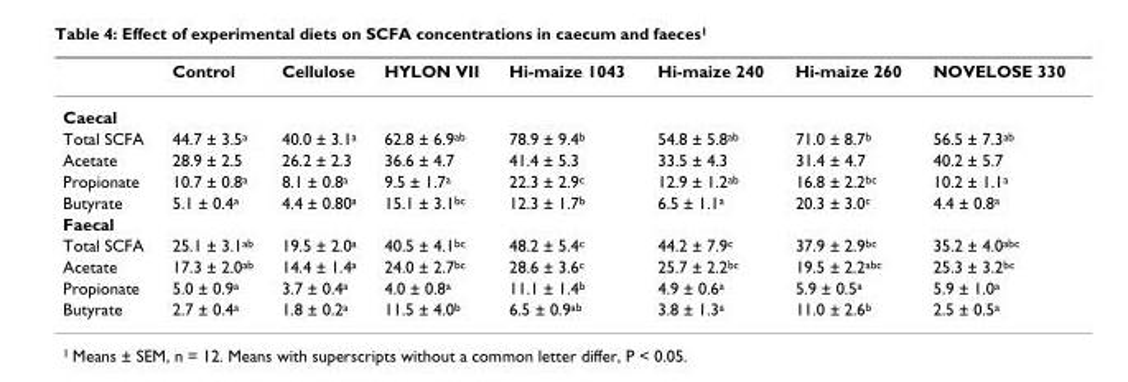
<table><thead><tr><td></td><td>Control</td><td>Cellulose</td><td>HYLON VII</td><td>Hi-maize 1043</td><td>Hi-maize 240</td><td>Hi-maize 260</td><td>NOVELOSE 330</td></tr></thead><tbody><tr><td colspan="8">Caecal</td></tr><tr><td>Total SCFA</td><td>44.7 ± 3.5<sup>a</sup></td><td>40.0 ± 3.1<sup>a</sup></td><td>62.8 ± 6.9<sup>ab</sup></td><td>78.9 ± 9.4<sup>b</sup></td><td>54.8 ± 5.8<sup>ab</sup></td><td>71.0 ± 8.7<sup>b</sup></td><td>56.5 ± 7.3<sup>ab</sup></td></tr><tr><td>Acetate</td><td>28.9 ± 2.5</td><td>26.2 ± 2.3</td><td>36.6 ± 4.7</td><td>41.4 ± 5.3</td><td>33.5 ± 4.3</td><td>31.4 ± 4.7</td><td>40.2 ± 5.7</td></tr><tr><td>Propionate</td><td>10.7 ± 0.8<sup>a</sup></td><td>8.1 ± 0.8<sup>a</sup></td><td>9.5 ± 1.7<sup>a</sup></td><td>22.3 ± 2.9<sup>c</sup></td><td>12.9 ± 1.2<sup>ab</sup></td><td>16.8 ± 2.2<sup>bc</sup></td><td>10.2 ± 1.1<sup>a</sup></td></tr><tr><td>Butyrate</td><td>5.1 ± 0.4<sup>a</sup></td><td>4.4 ± 0.80<sup>a</sup></td><td>15.1 ± 3.1<sup>bc</sup></td><td>12.3 ± 1.7<sup>b</sup></td><td>6.5 ± 1.1<sup>a</sup></td><td>20.3 ± 3.0<sup>c</sup></td><td>4.4 ± 0.8<sup>a</sup></td></tr><tr><td colspan="8">Faecal</td></tr><tr><td>Total SCFA</td><td>25.1 ± 3.1<sup>ab</sup></td><td>19.5 ± 2.0<sup>a</sup></td><td>40.5 ± 4.1<sup>bc</sup></td><td>48.2 ± 5.4<sup>c</sup></td><td>44.2 ± 7.9<sup>c</sup></td><td>37.9 ± 2.9<sup>bc</sup></td><td>35.2 ± 4.0<sup>abc</sup></td></tr><tr><td>Acetate</td><td>17.3 ± 2.0<sup>ab</sup></td><td>14.4 ± 1.4<sup>a</sup></td><td>24.0 ± 2.7<sup>bc</sup></td><td>28.6 ± 3.6<sup>c</sup></td><td>25.7 ± 2.2<sup>bc</sup></td><td>19.5 ± 2.2<sup>abc</sup></td><td>25.3 ± 3.2<sup>bc</sup></td></tr><tr><td>Propionate</td><td>5.0 ± 0.9<sup>a</sup></td><td>3.7 ± 0.4<sup>a</sup></td><td>4.0 ± 0.8<sup>a</sup></td><td>11.1 ± 1.4<sup>b</sup></td><td>4.9 ± 0.6<sup>a</sup></td><td>5.9 ± 0.5<sup>a</sup></td><td>5.9 ± 1.0<sup>a</sup></td></tr><tr><td>Butyrate</td><td>2.7 ± 0.4<sup>a</sup></td><td>1.8 ± 0.2<sup>a</sup></td><td>11.5 ± 4.0<sup>b</sup></td><td>6.5 ± 0.9<sup>ab</sup></td><td>3.8 ± 1.3<sup>a</sup></td><td>11.0 ± 2.6<sup>b</sup></td><td>2.5 ± 0.5<sup>a</sup></td></tr></tbody></table>